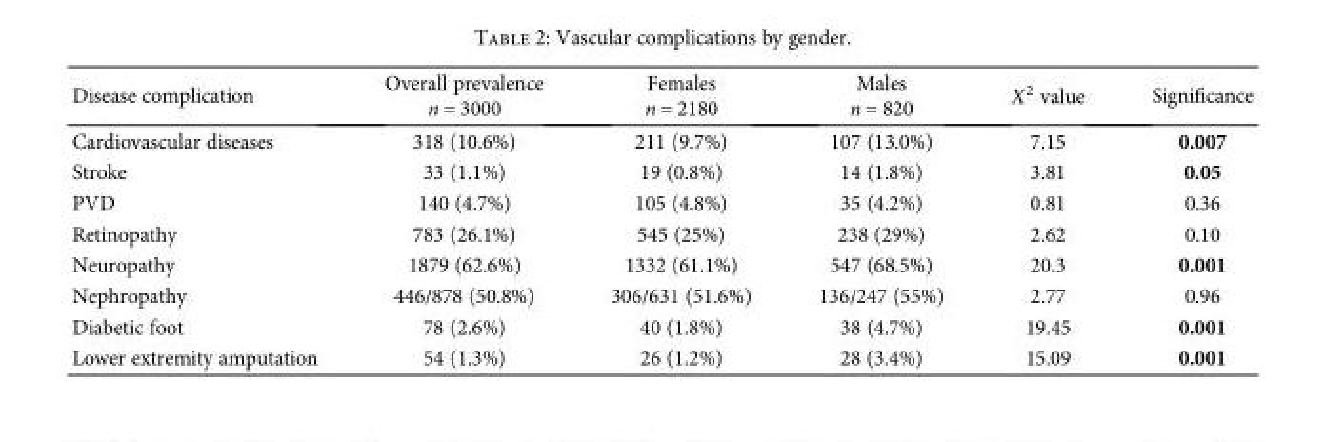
<table><thead><tr><td>Disease complication</td><td>Overall prevalence n = 3000</td><td>Females n = 2180</td><td>Males n = 820</td><td>X<sup>2</sup> value</td><td>Significance</td></tr></thead><tbody><tr><td>Cardiovascular diseases</td><td>318 (10.6%)</td><td>211 (9.7%)</td><td>107 (13.0%)</td><td>7.15</td><td>0.007</td></tr><tr><td>Stroke</td><td>33 (1.1%)</td><td>19 (0.8%)</td><td>14 (1.8%)</td><td>3.81</td><td>0.05</td></tr><tr><td>PVD</td><td>140 (4.7%)</td><td>105 (4.8%)</td><td>35 (4.2%)</td><td>0.81</td><td>0.36</td></tr><tr><td>Retinopathy</td><td>783 (26.1%)</td><td>545 (25%)</td><td>238 (29%)</td><td>2.62</td><td>0.10</td></tr><tr><td>Neuropathy</td><td>1879 (62.6%)</td><td>1332 (61.1%)</td><td>547 (68.5%)</td><td>20.3</td><td>0.001</td></tr><tr><td>Nephropathy</td><td>446/878 (50.8%)</td><td>306/631 (51.6%)</td><td>136/247 (55%)</td><td>2.77</td><td>0.96</td></tr><tr><td>Diabetic foot</td><td>78 (2.6%)</td><td>40 (1.8%)</td><td>38 (4.7%)</td><td>19.45</td><td>0.001</td></tr><tr><td>Lower extremity amputation</td><td>54 (1.3%)</td><td>26 (1.2%)</td><td>28 (3.4%)</td><td>15.09</td><td>0.001</td></tr></tbody></table>